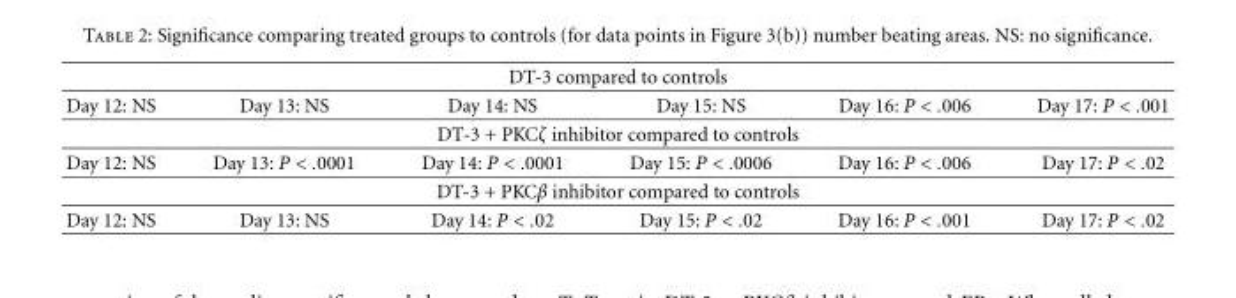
<table><thead><tr><td colspan="6">DT-3 compared to controls</td></tr><tr><td>Day 12: NS</td><td>Day 13: NS</td><td>Day 14: NS</td><td>Day 15: NS</td><td>Day 16: P &lt; .006</td><td>Day 17: P &lt; .001</td></tr></thead><tbody><tr><td colspan="6">DT-3 + PKCζ inhibitor compared to controls</td></tr><tr><td>Day 12: NS</td><td>Day 13: P &lt; .0001</td><td>Day 14: P &lt; .0001</td><td>Day 15: P &lt; .0006</td><td>Day 16: P &lt; .006</td><td>Day 17: P &lt; .02</td></tr><tr><td colspan="6">DT-3 + PKCβ inhibitor compared to controls</td></tr><tr><td>Day 12: NS</td><td>Day 13: NS</td><td>Day 14: P &lt; .02</td><td>Day 15: P &lt; .02</td><td>Day 16: P &lt; .001</td><td>Day 17: P &lt; .02</td></tr></tbody></table>